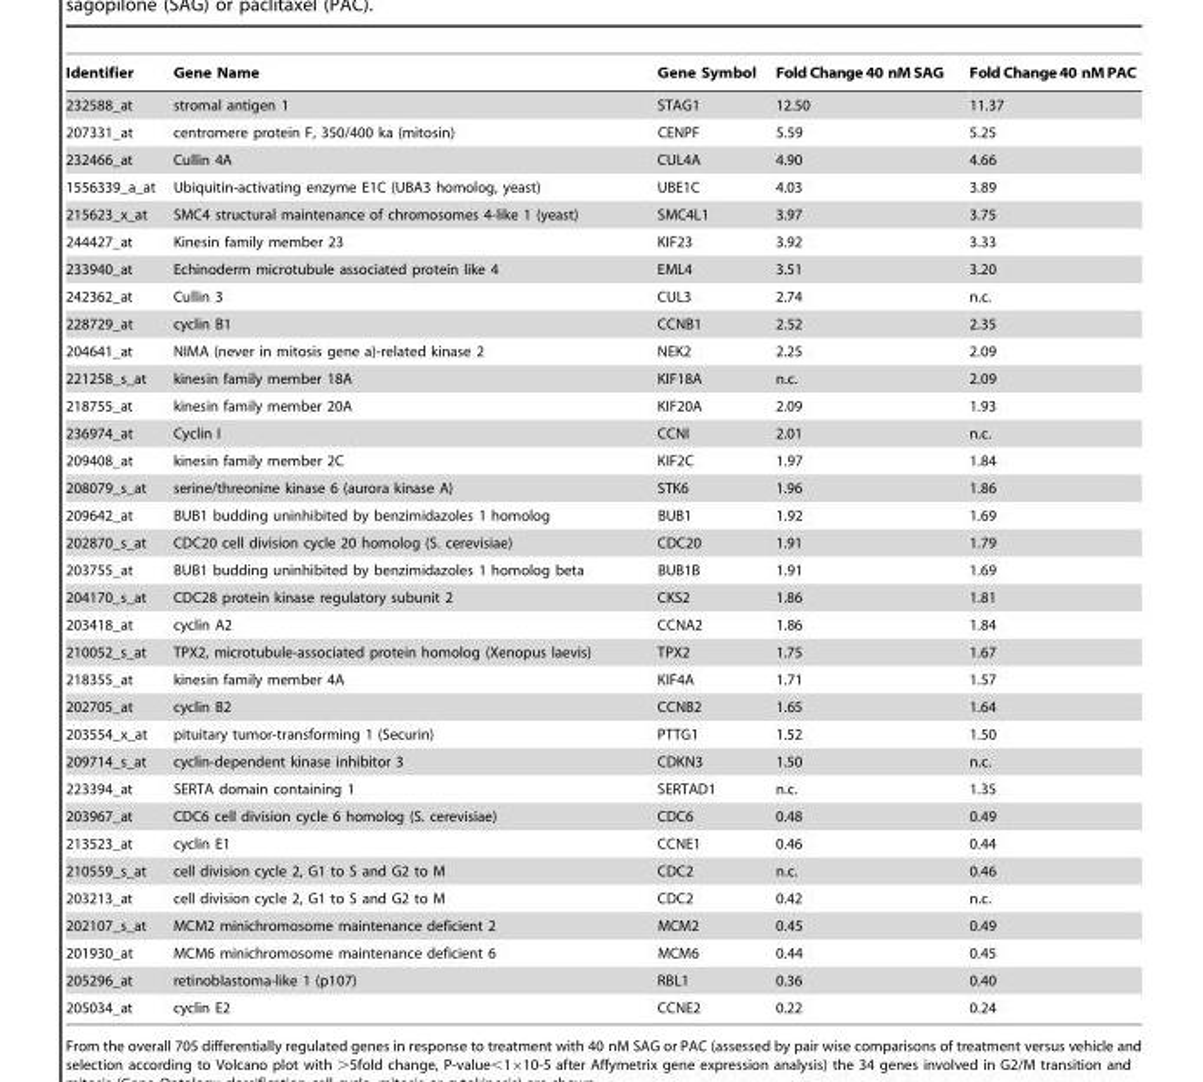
<table><thead><tr><td>Identifier</td><td>Gene Name</td><td>Gene Symbol</td><td>Fold Change 40 nM SAG</td><td>Fold Change 40 nM PAC</td></tr></thead><tbody><tr><td>232588_at</td><td>stromal antigen 1</td><td>STAG1</td><td>12.50</td><td>11.37</td></tr><tr><td>207331_at</td><td>centromere protein F, 350/400 ka (mitosin)</td><td>CENPF</td><td>5.59</td><td>5.25</td></tr><tr><td>232466_at</td><td>Cullin 4A</td><td>CUL4A</td><td>4.90</td><td>4.66</td></tr><tr><td>1556339_a_at</td><td>Ubiquitin-activating enzyme E1C (UBA3 homolog, yeast)</td><td>UBE1C</td><td>4.03</td><td>3.89</td></tr><tr><td>215623_x_at</td><td>SMC4 structural maintenance of chromosomes 4-like 1 (yeast)</td><td>SMC4L1</td><td>3.97</td><td>3.75</td></tr><tr><td>244427_at</td><td>Kinesin family member 23</td><td>KIF23</td><td>3.92</td><td>3.33</td></tr><tr><td>233940_at</td><td>Echinoderm microtubule associated protein like 4</td><td>EML4</td><td>3.51</td><td>3.20</td></tr><tr><td>242362_at</td><td>Cullin 3</td><td>CUL3</td><td>2.74</td><td>n.c.</td></tr><tr><td>228729_at</td><td>cyclin B1</td><td>CCNB1</td><td>2.52</td><td>2.35</td></tr><tr><td>204641_at</td><td>NIMA (never in mitosis gene a)-related kinase 2</td><td>NEK2</td><td>2.25</td><td>2.09</td></tr><tr><td>221258_s_at</td><td>kinesin family member 18A</td><td>KIF18A</td><td>n.c.</td><td>2.09</td></tr><tr><td>218755_at</td><td>kinesin family member 20A</td><td>KIF20A</td><td>2.09</td><td>1.93</td></tr><tr><td>236974_at</td><td>Cyclin I</td><td>CCNI</td><td>2.01</td><td>n.c.</td></tr><tr><td>209408_at</td><td>kinesin family member 2C</td><td>KIF2C</td><td>1.97</td><td>1.84</td></tr><tr><td>208079_s_at</td><td>serine/threonine kinase 6 (aurora kinase A)</td><td>STK6</td><td>1.96</td><td>1.86</td></tr><tr><td>209642_at</td><td>BUB1 budding uninhibited by benzimidazoles 1 homolog</td><td>BUB1</td><td>1.92</td><td>1.69</td></tr><tr><td>202870_s_at</td><td>CDC20 cell division cycle 20 homolog (S. cerevisiae)</td><td>CDC20</td><td>1.91</td><td>1.79</td></tr><tr><td>203755_at</td><td>BUB1 budding uninhibited by benzimidazoles 1 homolog beta</td><td>BUB1B</td><td>1.91</td><td>1.69</td></tr><tr><td>204170_s_at</td><td>CDC28 protein kinase regulatory subunit 2</td><td>CKS2</td><td>1.86</td><td>1.81</td></tr><tr><td>203418_at</td><td>cyclin A2</td><td>CCNA2</td><td>1.86</td><td>1.84</td></tr><tr><td>210052_s_at</td><td>TPX2, microtubule-associated protein homolog (Xenopus laevis)</td><td>TPX2</td><td>1.75</td><td>1.67</td></tr><tr><td>218355_at</td><td>kinesin family member 4A</td><td>KIF4A</td><td>1.71</td><td>1.57</td></tr><tr><td>202705_at</td><td>cyclin B2</td><td>CCNB2</td><td>1.65</td><td>1.64</td></tr><tr><td>203554_x_at</td><td>pituitary tumor-transforming 1 (Securin)</td><td>PTTG1</td><td>1.52</td><td>1.50</td></tr><tr><td>209714_s_at</td><td>cyclin-dependent kinase inhibitor 3</td><td>CDKN3</td><td>1.50</td><td>n.c.</td></tr><tr><td>223394_at</td><td>SERTA domain containing 1</td><td>SERTAD1</td><td>n.c.</td><td>1.35</td></tr><tr><td>203967_at</td><td>CDC6 cell division cycle 6 homolog (S. cerevisiae)</td><td>CDC6</td><td>0.48</td><td>0.49</td></tr><tr><td>213523_at</td><td>cyclin E1</td><td>CCNE1</td><td>0.46</td><td>0.44</td></tr><tr><td>210559_s_at</td><td>cell division cycle 2, G1 to S and G2 to M</td><td>CDC2</td><td>n.c.</td><td>0.46</td></tr><tr><td>203213_at</td><td>cell division cycle 2, G1 to S and G2 to M</td><td>CDC2</td><td>0.42</td><td>n.c.</td></tr><tr><td>202107_s_at</td><td>MCM2 minichromosome maintenance deficient 2</td><td>MCM2</td><td>0.45</td><td>0.49</td></tr><tr><td>201930_at</td><td>MCM6 minichromosome maintenance deficient 6</td><td>MCM6</td><td>0.44</td><td>0.45</td></tr><tr><td>205296_at</td><td>retinoblastoma-like 1 (p107)</td><td>RBL1</td><td>0.36</td><td>0.40</td></tr><tr><td>205034_at</td><td>cyclin E2</td><td>CCNE2</td><td>0.22</td><td>0.24</td></tr></tbody></table>